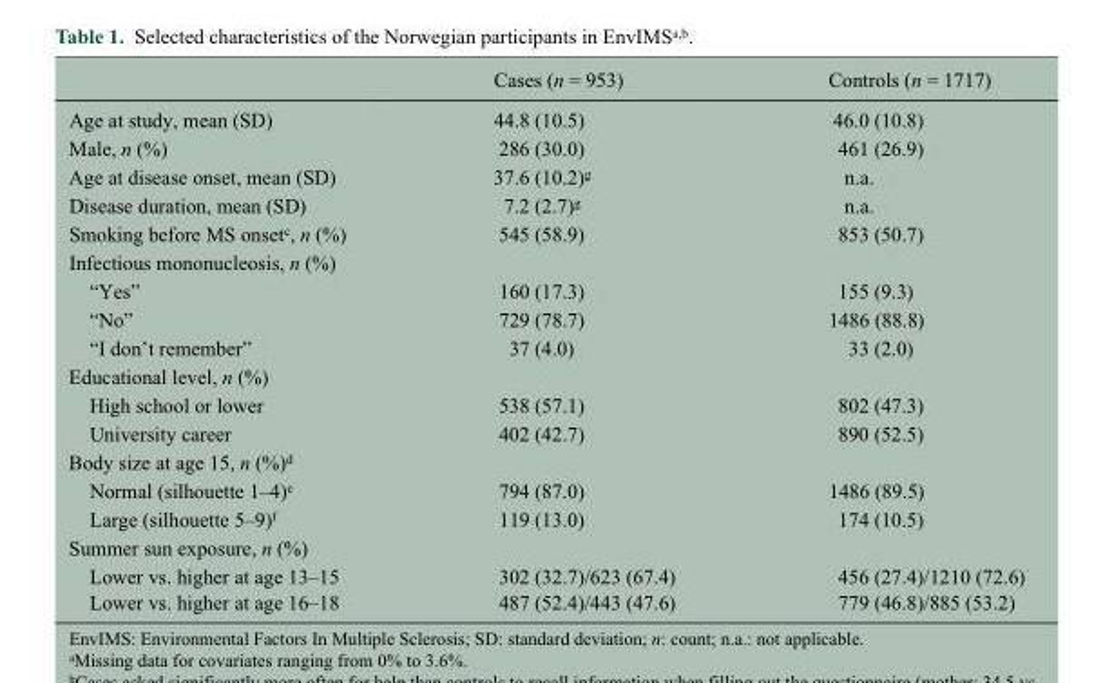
<table><thead><tr><td></td><td>Cases (n = 953)</td><td>Controls (n = 1717)</td></tr></thead><tbody><tr><td>Age at study, mean (SD)</td><td>44.8 (10.5)</td><td>46.0 (10.8)</td></tr><tr><td>Male, n (%)</td><td>286 (30.0)</td><td>461 (26.9)</td></tr><tr><td>Age at disease onset, mean (SD)</td><td>37.6 (10.2)<sup>g</sup></td><td>n.a.</td></tr><tr><td>Disease duration, mean (SD)</td><td>7.2 (2.7)<sup>g</sup></td><td>n.a.</td></tr><tr><td>Smoking before MS onset<sup>c</sup>, n (%)</td><td>545 (58.9)</td><td>853 (50.7)</td></tr><tr><td colspan="3">Infectious mononucleosis, n (%)</td></tr><tr><td>“Yes”</td><td>160 (17.3)</td><td>155 (9.3)</td></tr><tr><td>“No”</td><td>729 (78.7)</td><td>1486 (88.8)</td></tr><tr><td>“I don’t remember”</td><td>37 (4.0)</td><td>33 (2.0)</td></tr><tr><td colspan="3">Educational level, n (%)</td></tr><tr><td>High school or lower</td><td>538 (57.1)</td><td>802 (47.3)</td></tr><tr><td>University career</td><td>402 (42.7)</td><td>890 (52.5)</td></tr><tr><td colspan="3">Body size at age 15, n (%)<sup>d</sup></td></tr><tr><td>Normal (silhouette 1–4)<sup>e</sup></td><td>794 (87.0)</td><td>1486 (89.5)</td></tr><tr><td>Large (silhouette 5–9)<sup>f</sup></td><td>119 (13.0)</td><td>174 (10.5)</td></tr><tr><td colspan="3">Summer sun exposure, n (%)</td></tr><tr><td>Lower vs. higher at age 13–15</td><td>302 (32.7)/623 (67.4)</td><td>456 (27.4)/1210 (72.6)</td></tr><tr><td>Lower vs. higher at age 16–18</td><td>487 (52.4)/443 (47.6)</td><td>779 (46.8)/885 (53.2)</td></tr></tbody></table>